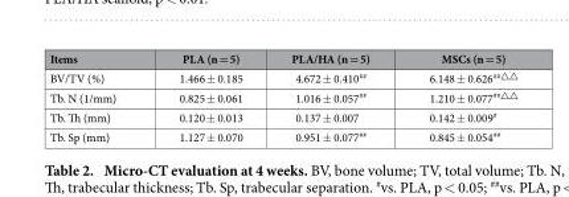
<table><thead><tr><td>Items</td><td>PLA (n = 5)</td><td>PLA/HA (n = 5)</td><td>MSCs (n = 5)</td></tr></thead><tbody><tr><td>BV/TV (%)</td><td>1.466 ± 0.185</td><td>4.672 ± 0.410<sup>##</sup></td><td>6.148 ± 0.626<sup>##△△</sup></td></tr><tr><td>Tb. N (1/mm)</td><td>0.825 ± 0.061</td><td>1.016 ± 0.057<sup>##</sup></td><td>1.210 ± 0.077<sup>##△△</sup></td></tr><tr><td>Tb. Th (mm)</td><td>0.120 ± 0.013</td><td>0.137 ± 0.007</td><td>0.142 ± 0.009<sup>#</sup></td></tr><tr><td>Tb. Sp (mm)</td><td>1.127 ± 0.070</td><td>0.951 ± 0.077<sup>##</sup></td><td>0.845 ± 0.054<sup>##</sup></td></tr></tbody></table>